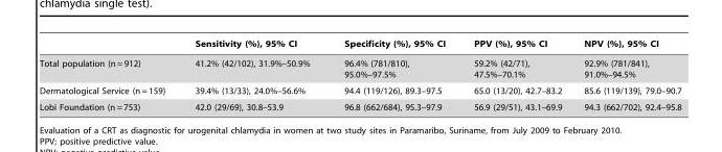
<table><thead><tr><td></td><td>Sensitivity (%), 95% CI</td><td>Specificity (%), 95% CI</td><td>PPV (%), 95% CI</td><td>NPV (%), 95% CI</td></tr></thead><tbody><tr><td>Total population (n = 912)</td><td>41.2% (42/102), 31.9%–50.9%</td><td>96.4% (781/810), 95.0%–97.5%</td><td>59.2% (42/71), 47.5%–70.1%</td><td>92.9% (781/841), 91.0%–94.5%</td></tr><tr><td>Dermatological Service (n = 159)</td><td>39.4% (13/33), 24.0%–56.6%</td><td>94.4 (119/126), 89.3–97.5</td><td>65.0 (13/20), 42.7–83.2</td><td>85.6 (119/139), 79.0–90.7</td></tr><tr><td>Lobi Foundation (n = 753)</td><td>42.0 (29/69), 30.8–53.9</td><td>96.8 (662/684), 95.3–97.9</td><td>56.9 (29/51), 43.1–69.9</td><td>94.3 (662/702), 92.4–95.8</td></tr></tbody></table>